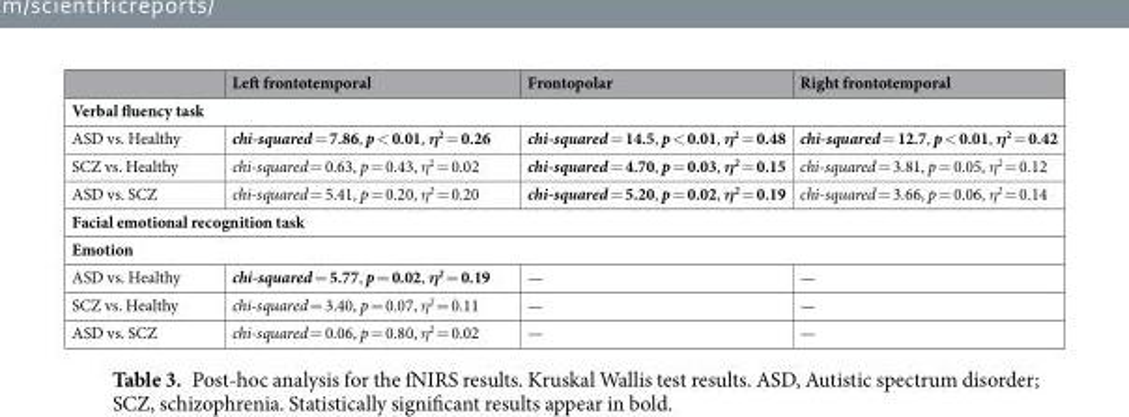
<table><thead><tr><td></td><td>Left frontotemporal</td><td>Frontopolar</td><td>Right frontotemporal</td></tr></thead><tbody><tr><td colspan="4">Verbal fluency task</td></tr><tr><td>ASD vs. Healthy</td><td>chi-squared = 7.86, p &lt; 0.01, η<sup>2</sup> = 0.26</td><td>chi-squared = 14.5, p &lt; 0.01, η<sup>2</sup> = 0.48</td><td>chi-squared = 12.7, p &lt; 0.01, η<sup>2</sup> = 0.42</td></tr><tr><td>SCZ vs. Healthy</td><td>chi-squared = 0.63, p = 0.43, η<sup>2</sup> = 0.02</td><td>chi-squared = 4.70, p = 0.03, η<sup>2</sup> = 0.15</td><td>chi-squared = 3.81, p = 0.05, η<sup>2</sup> = 0.12</td></tr><tr><td>ASD vs. SCZ</td><td>chi-squared = 5.41, p = 0.20, η<sup>2</sup> = 0.20</td><td>chi-squared = 5.20, p = 0.02, η<sup>2</sup> = 0.19</td><td>chi-squared = 3.66, p = 0.06, η<sup>2</sup> = 0.14</td></tr><tr><td colspan="4">Facial emotional recognition task</td></tr><tr><td colspan="4">Emotion</td></tr><tr><td>ASD vs. Healthy</td><td>chi-squared = 5.77, p = 0.02, η<sup>2</sup> = 0.19</td><td>—</td><td>—</td></tr><tr><td>SCZ vs. Healthy</td><td>chi-squared = 3.40, p = 0.07, η<sup>2</sup> = 0.11</td><td>—</td><td>—</td></tr><tr><td>ASD vs. SCZ</td><td>chi-squared = 0.06, p = 0.80, η<sup>2</sup> = 0.02</td><td>—</td><td>—</td></tr></tbody></table>